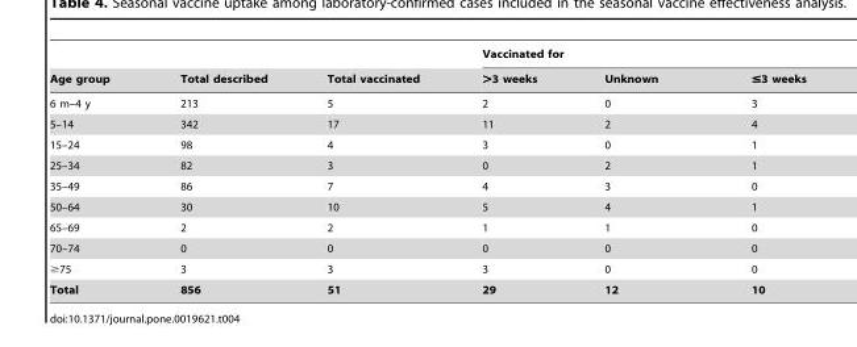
<table><thead><tr><td rowspan="2">Age group</td><td rowspan="2">Total described</td><td rowspan="2">Total vaccinated</td><td colspan="3">Vaccinated for</td></tr><tr><td>&gt;3 weeks</td><td>Unknown</td><td>≤3 weeks</td></tr></thead><tbody><tr><td>6 m–4 y</td><td>213</td><td>5</td><td>2</td><td>0</td><td>3</td></tr><tr><td>5–14</td><td>342</td><td>17</td><td>11</td><td>2</td><td>4</td></tr><tr><td>15–24</td><td>98</td><td>4</td><td>3</td><td>0</td><td>1</td></tr><tr><td>25–34</td><td>82</td><td>3</td><td>0</td><td>2</td><td>1</td></tr><tr><td>35–49</td><td>86</td><td>7</td><td>4</td><td>3</td><td>0</td></tr><tr><td>50–64</td><td>30</td><td>10</td><td>5</td><td>4</td><td>1</td></tr><tr><td>65–69</td><td>2</td><td>2</td><td>1</td><td>1</td><td>0</td></tr><tr><td>70–74</td><td>0</td><td>0</td><td>0</td><td>0</td><td>0</td></tr><tr><td>≥75</td><td>3</td><td>3</td><td>3</td><td>0</td><td>0</td></tr><tr><td>Total</td><td>856</td><td>51</td><td>29</td><td>12</td><td>10</td></tr></tbody></table>